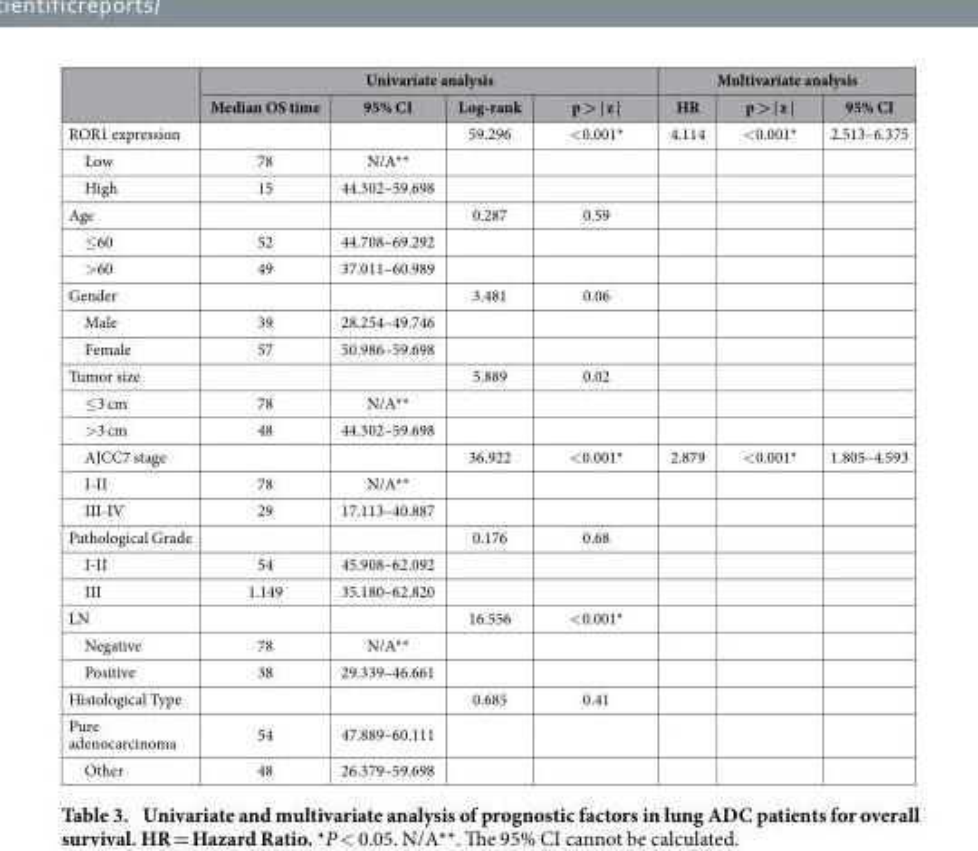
<table><thead><tr><td rowspan="2"></td><td colspan="4">Univariate analysis</td><td colspan="3">Multivariate analysis</td></tr><tr><td>Median OS time</td><td>95% CI</td><td>Log-rank</td><td>p &gt; | z |</td><td>HR</td><td>p &gt; | z |</td><td>95% CI</td></tr></thead><tbody><tr><td>ROR1 expression</td><td></td><td></td><td>59.296</td><td>&lt; 0.001*</td><td>4.114</td><td>&lt; 0.001*</td><td>2.513–6.375</td></tr><tr><td>Low</td><td>78</td><td>N/A**</td><td></td><td></td><td></td><td></td><td></td></tr><tr><td>High</td><td>15</td><td>44.302–59.698</td><td></td><td></td><td></td><td></td><td></td></tr><tr><td>Age</td><td></td><td></td><td>0.287</td><td>0.59</td><td></td><td></td><td></td></tr><tr><td>≤ 60</td><td>52</td><td>44.708–69.292</td><td></td><td></td><td></td><td></td><td></td></tr><tr><td>&gt; 60</td><td>49</td><td>37.011–60.989</td><td></td><td></td><td></td><td></td><td></td></tr><tr><td>Gender</td><td></td><td></td><td>3.481</td><td>0.06</td><td></td><td></td><td></td></tr><tr><td>Male</td><td>39</td><td>28.254–49.746</td><td></td><td></td><td></td><td></td><td></td></tr><tr><td>Female</td><td>57</td><td>50.986–59.698</td><td></td><td></td><td></td><td></td><td></td></tr><tr><td>Tumor size</td><td></td><td></td><td>5.889</td><td>0.02</td><td></td><td></td><td></td></tr><tr><td>≤ 3 cm</td><td>78</td><td>N/A**</td><td></td><td></td><td></td><td></td><td></td></tr><tr><td>&gt; 3 cm</td><td>48</td><td>44.302–59.698</td><td></td><td></td><td></td><td></td><td></td></tr><tr><td>AJCC7 stage</td><td></td><td></td><td>36.922</td><td>&lt; 0.001*</td><td>2.879</td><td>&lt; 0.001*</td><td>1.805–4.593</td></tr><tr><td>I-II</td><td>78</td><td>N/A**</td><td></td><td></td><td></td><td></td><td></td></tr><tr><td>III-IV</td><td>29</td><td>17.113–40.887</td><td></td><td></td><td></td><td></td><td></td></tr><tr><td>Pathological Grade</td><td></td><td></td><td>0.176</td><td>0.68</td><td></td><td></td><td></td></tr><tr><td>I-II</td><td>54</td><td>45.908–62.092</td><td></td><td></td><td></td><td></td><td></td></tr><tr><td>III</td><td>1.149</td><td>35.180–62.820</td><td></td><td></td><td></td><td></td><td></td></tr><tr><td>LN</td><td></td><td></td><td>16.556</td><td>&lt; 0.001*</td><td></td><td></td><td></td></tr><tr><td>Negative</td><td>78</td><td>N/A**</td><td></td><td></td><td></td><td></td><td></td></tr><tr><td>Positive</td><td>38</td><td>29.339–46.661</td><td></td><td></td><td></td><td></td><td></td></tr><tr><td>Histological Type</td><td></td><td></td><td>0.685</td><td>0.41</td><td></td><td></td><td></td></tr><tr><td>Pure adenocarcinoma</td><td>54</td><td>47.889–60.111</td><td></td><td></td><td></td><td></td><td></td></tr><tr><td>Other</td><td>48</td><td>26.379–59.698</td><td></td><td></td><td></td><td></td><td></td></tr></tbody></table>